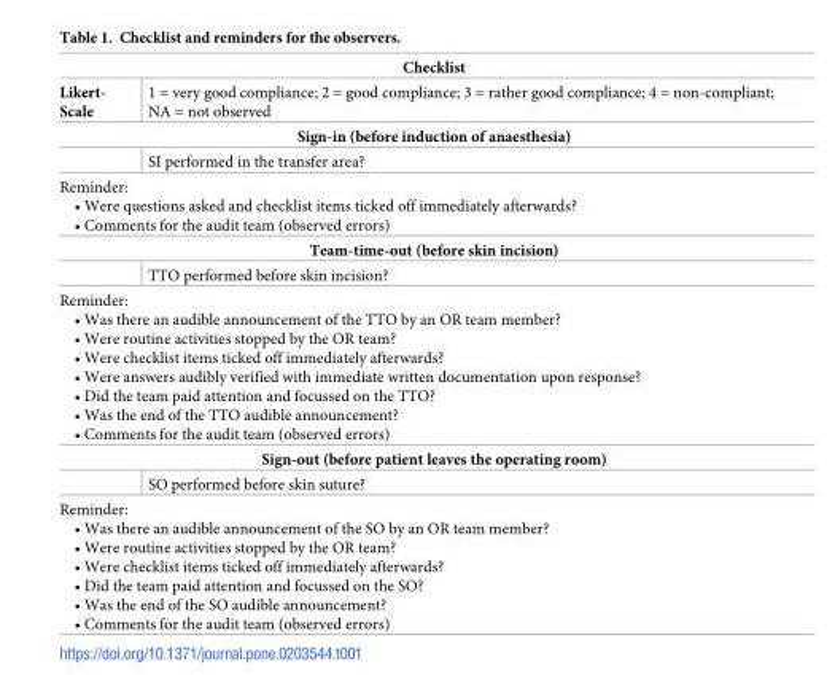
<table><tbody><tr><td colspan="2">Checklist</td></tr><tr><td>Likert- Scale</td><td>1 = very good compliance; 2 = good compliance; 3 = rather good compliance; 4 = non-compliant; NA = not observed</td></tr><tr><td colspan="2">Sign-in (before induction of anaesthesia)</td></tr><tr><td></td><td>SI performed in the transfer area?</td></tr><tr><td colspan="2">Reminder: • Were questions asked and checklist items ticked off immediately afterwards? • Comments for the audit team (observed errors)</td></tr><tr><td colspan="2">Team-time-out (before skin incision)</td></tr><tr><td></td><td>TTO performed before skin incision?</td></tr><tr><td colspan="2">Reminder: • Was there an audible announcement of the TTO by an OR team member? • Were routine activities stopped by the OR team? • Were checklist items ticked off immediately afterwards? • Were answers audibly verified with immediate written documentation upon response? • Did the team paid attention and focussed on the TTO? • Was the end of the TTO audible announcement? • Comments for the audit team (observed errors)</td></tr><tr><td colspan="2">Sign-out (before patient leaves the operating room)</td></tr><tr><td></td><td>SO performed before skin suture?</td></tr><tr><td colspan="2">Reminder: • Was there an audible announcement of the SO by an OR team member? • Were routine activities stopped by the OR team? • Were checklist items ticked off immediately afterwards? • Did the team paid attention and focussed on the SO? • Was the end of the SO audible announcement? • Comments for the audit team (observed errors)</td></tr></tbody></table>